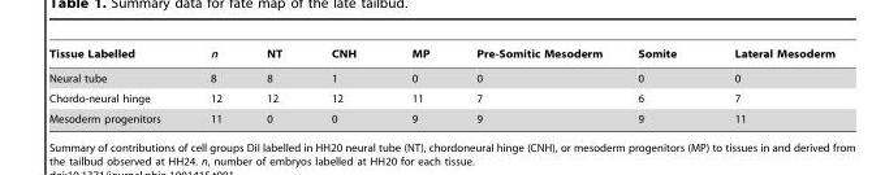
<table><thead><tr><td>Tissue Labelled</td><td>n</td><td>NT</td><td>CNH</td><td>MP</td><td>Pre-Somitic Mesoderm</td><td>Somite</td><td>Lateral Mesoderm</td></tr></thead><tbody><tr><td>Neural tube</td><td>8</td><td>8</td><td>1</td><td>0</td><td>0</td><td>0</td><td>0</td></tr><tr><td>Chordo-neural hinge</td><td>12</td><td>12</td><td>12</td><td>11</td><td>7</td><td>6</td><td>7</td></tr><tr><td>Mesoderm progenitors</td><td>11</td><td>0</td><td>0</td><td>9</td><td>9</td><td>9</td><td>11</td></tr></tbody></table>